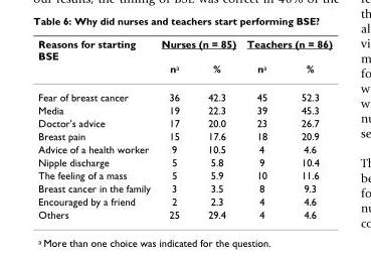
<table><thead><tr><td rowspan="2">Reasons for starting BSE</td><td colspan="2">Nurses (n = 85)</td><td colspan="2">Teachers (n = 86)</td></tr><tr><td>n<sup>a</sup></td><td>%</td><td>n<sup>a</sup></td><td>%</td></tr></thead><tbody><tr><td>Fear of breast cancer</td><td>36</td><td>42.3</td><td>45</td><td>52.3</td></tr><tr><td>Media</td><td>19</td><td>22.3</td><td>39</td><td>45.3</td></tr><tr><td>Doctor&#x27;s advice</td><td>17</td><td>20.0</td><td>23</td><td>26.7</td></tr><tr><td>Breast pain</td><td>15</td><td>17.6</td><td>18</td><td>20.9</td></tr><tr><td>Advice of a health worker</td><td>9</td><td>10.5</td><td>4</td><td>4.6</td></tr><tr><td>Nipple discharge</td><td>5</td><td>5.8</td><td>9</td><td>10.4</td></tr><tr><td>The feeling of a mass</td><td>5</td><td>5.9</td><td>10</td><td>11.6</td></tr><tr><td>Breast cancer in the family</td><td>3</td><td>3.5</td><td>8</td><td>9.3</td></tr><tr><td>Encouraged by a friend</td><td>2</td><td>2.3</td><td>4</td><td>4.6</td></tr><tr><td>Others</td><td>25</td><td>29.4</td><td>4</td><td>4.6</td></tr></tbody></table>